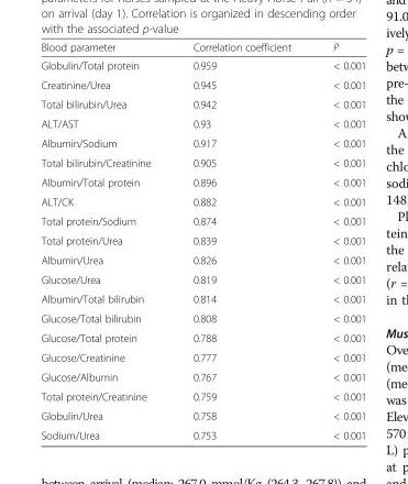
<table><thead><tr><td>Blood parameter</td><td>Correlation coefficient</td><td>P</td></tr></thead><tbody><tr><td>Globulin/Total protein</td><td>0.959</td><td>&lt; 0.001</td></tr><tr><td>Creatinine/Urea</td><td>0.945</td><td>&lt; 0.001</td></tr><tr><td>Total bilirubin/Urea</td><td>0.942</td><td>&lt; 0.001</td></tr><tr><td>ALT/AST</td><td>0.93</td><td>&lt; 0.001</td></tr><tr><td>Albumin/Sodium</td><td>0.917</td><td>&lt; 0.001</td></tr><tr><td>Total bilirubin/Creatinine</td><td>0.905</td><td>&lt; 0.001</td></tr><tr><td>Albumin/Total protein</td><td>0.896</td><td>&lt; 0.001</td></tr><tr><td>ALT/CK</td><td>0.882</td><td>&lt; 0.001</td></tr><tr><td>Total protein/Sodium</td><td>0.874</td><td>&lt; 0.001</td></tr><tr><td>Total protein/Urea</td><td>0.839</td><td>&lt; 0.001</td></tr><tr><td>Albumin/Urea</td><td>0.826</td><td>&lt; 0.001</td></tr><tr><td>Glucose/Urea</td><td>0.819</td><td>&lt; 0.001</td></tr><tr><td>Albumin/Total bilirubin</td><td>0.814</td><td>&lt; 0.001</td></tr><tr><td>Glucose/Total bilirubin</td><td>0.808</td><td>&lt; 0.001</td></tr><tr><td>Glucose/Total protein</td><td>0.788</td><td>&lt; 0.001</td></tr><tr><td>Glucose/Creatinine</td><td>0.777</td><td>&lt; 0.001</td></tr><tr><td>Glucose/Albumin</td><td>0.767</td><td>&lt; 0.001</td></tr><tr><td>Total protein/Creatinine</td><td>0.759</td><td>&lt; 0.001</td></tr><tr><td>Globulin/Urea</td><td>0.758</td><td>&lt; 0.001</td></tr><tr><td>Sodium/Urea</td><td>0.753</td><td>&lt; 0.001</td></tr></tbody></table>